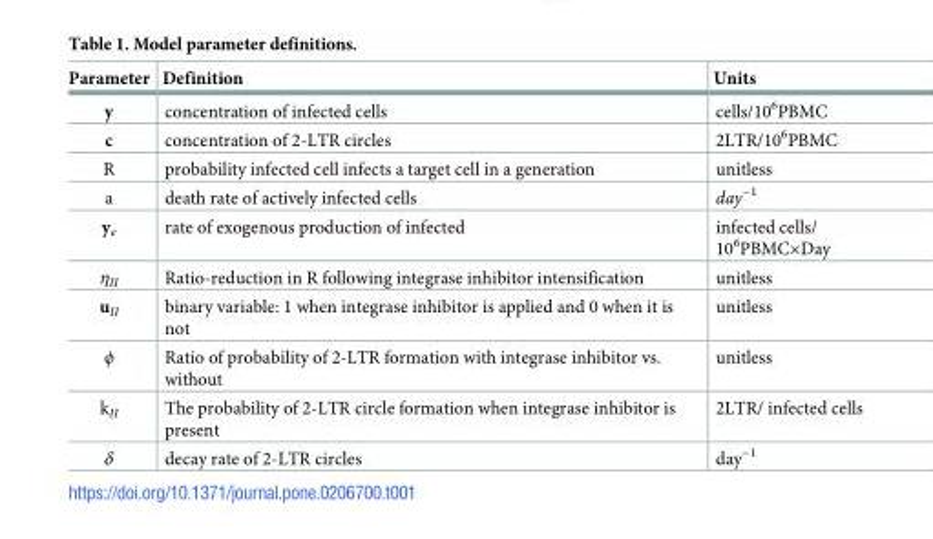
<table><thead><tr><td>Parameter</td><td>Definition</td><td>Units</td></tr></thead><tbody><tr><td>y</td><td>concentration of infected cells</td><td>cells/10<sup>6</sup>PBMC</td></tr><tr><td>c</td><td>concentration of 2-LTR circles</td><td>2LTR/10<sup>6</sup>PBMC</td></tr><tr><td>R</td><td>probability infected cell infects a target cell in a generation</td><td>unitless</td></tr><tr><td>a</td><td>death rate of actively infected cells</td><td>day<sup>−1</sup></td></tr><tr><td>y<sub>e</sub></td><td>rate of exogenous production of infected</td><td>infected cells/ 10<sup>6</sup>PBMC×Day</td></tr><tr><td>η<sub>II</sub></td><td>Ratio-reduction in R following integrase inhibitor intensification</td><td>unitless</td></tr><tr><td>u<sub>II</sub></td><td>binary variable: 1 when integrase inhibitor is applied and 0 when it is not</td><td>unitless</td></tr><tr><td>ϕ</td><td>Ratio of probability of 2-LTR formation with integrase inhibitor vs. without</td><td>unitless</td></tr><tr><td>k<sub>II</sub></td><td>The probability of 2-LTR circle formation when integrase inhibitor is present</td><td>2LTR/ infected cells</td></tr><tr><td>δ</td><td>decay rate of 2-LTR circles</td><td>day<sup>−1</sup></td></tr></tbody></table>